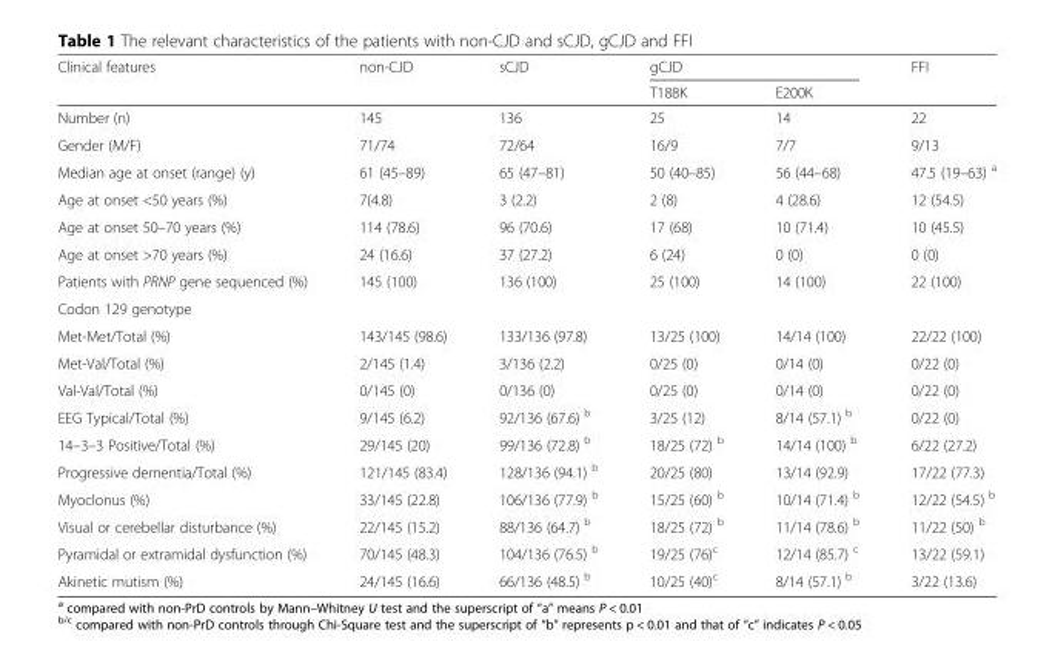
<table><thead><tr><td rowspan="2">Clinical features</td><td rowspan="2">non-CJD</td><td rowspan="2">sCJD</td><td colspan="2">gCJD</td><td rowspan="2">FFI</td></tr><tr><td>T188K</td><td>E200K</td></tr></thead><tbody><tr><td>Number (n)</td><td>145</td><td>136</td><td>25</td><td>14</td><td>22</td></tr><tr><td>Gender (M/F)</td><td>71/74</td><td>72/64</td><td>16/9</td><td>7/7</td><td>9/13</td></tr><tr><td>Median age at onset (range) (y)</td><td>61 (45–89)</td><td>65 (47–81)</td><td>50 (40–85)</td><td>56 (44–68)</td><td>47.5 (19–63) <sup>a</sup></td></tr><tr><td>Age at onset &lt;50 years (%)</td><td>7(4.8)</td><td>3 (2.2)</td><td>2 (8)</td><td>4 (28.6)</td><td>12 (54.5)</td></tr><tr><td>Age at onset 50–70 years (%)</td><td>114 (78.6)</td><td>96 (70.6)</td><td>17 (68)</td><td>10 (71.4)</td><td>10 (45.5)</td></tr><tr><td>Age at onset &gt;70 years (%)</td><td>24 (16.6)</td><td>37 (27.2)</td><td>6 (24)</td><td>0 (0)</td><td>0 (0)</td></tr><tr><td>Patients with PRNP gene sequenced (%)</td><td>145 (100)</td><td>136 (100)</td><td>25 (100)</td><td>14 (100)</td><td>22 (100)</td></tr><tr><td colspan="6">Codon 129 genotype</td></tr><tr><td>Met-Met/Total (%)</td><td>143/145 (98.6)</td><td>133/136 (97.8)</td><td>13/25 (100)</td><td>14/14 (100)</td><td>22/22 (100)</td></tr><tr><td>Met-Val/Total (%)</td><td>2/145 (1.4)</td><td>3/136 (2.2)</td><td>0/25 (0)</td><td>0/14 (0)</td><td>0/22 (0)</td></tr><tr><td>Val-Val/Total (%)</td><td>0/145 (0)</td><td>0/136 (0)</td><td>0/25 (0)</td><td>0/14 (0)</td><td>0/22 (0)</td></tr><tr><td>EEG Typical/Total (%)</td><td>9/145 (6.2)</td><td>92/136 (67.6) <sup>b</sup></td><td>3/25 (12)</td><td>8/14 (57.1) <sup>b</sup></td><td>0/22 (0)</td></tr><tr><td>14–3–3 Positive/Total (%)</td><td>29/145 (20)</td><td>99/136 (72.8) <sup>b</sup></td><td>18/25 (72) <sup>b</sup></td><td>14/14 (100) <sup>b</sup></td><td>6/22 (27.2)</td></tr><tr><td>Progressive dementia/Total (%)</td><td>121/145 (83.4)</td><td>128/136 (94.1) <sup>b</sup></td><td>20/25 (80)</td><td>13/14 (92.9)</td><td>17/22 (77.3)</td></tr><tr><td>Myoclonus (%)</td><td>33/145 (22.8)</td><td>106/136 (77.9) <sup>b</sup></td><td>15/25 (60) <sup>b</sup></td><td>10/14 (71.4) <sup>b</sup></td><td>12/22 (54.5) <sup>b</sup></td></tr><tr><td>Visual or cerebellar disturbance (%)</td><td>22/145 (15.2)</td><td>88/136 (64.7) <sup>b</sup></td><td>18/25 (72) <sup>b</sup></td><td>11/14 (78.6) <sup>b</sup></td><td>11/22 (50) <sup>b</sup></td></tr><tr><td>Pyramidal or extramidal dysfunction (%)</td><td>70/145 (48.3)</td><td>104/136 (76.5) <sup>b</sup></td><td>19/25 (76)<sup>c</sup></td><td>12/14 (85.7) <sup>c</sup></td><td>13/22 (59.1)</td></tr><tr><td>Akinetic mutism (%)</td><td>24/145 (16.6)</td><td>66/136 (48.5) <sup>b</sup></td><td>10/25 (40)<sup>c</sup></td><td>8/14 (57.1) <sup>b</sup></td><td>3/22 (13.6)</td></tr></tbody></table>